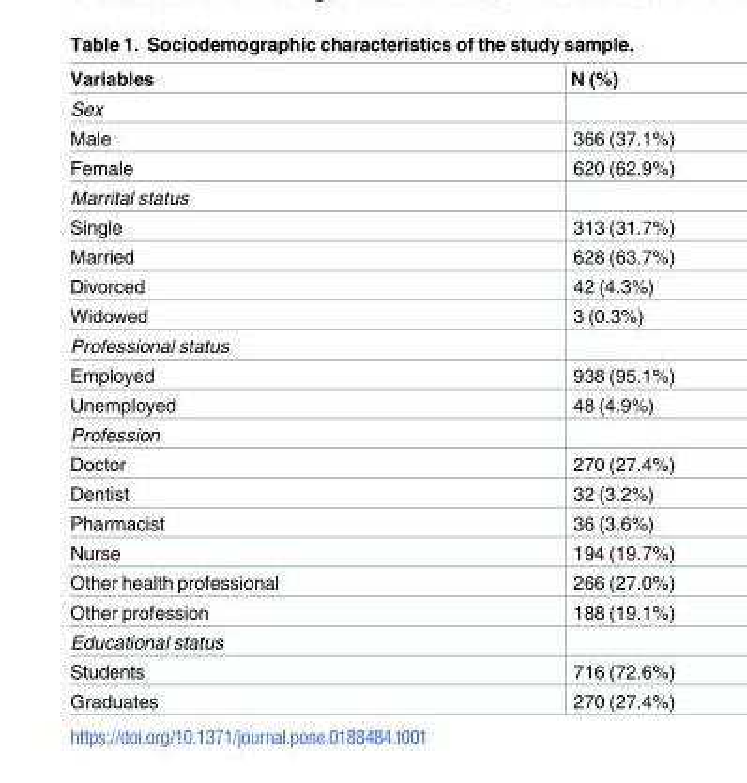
<table><thead><tr><td>Variables</td><td>N (%)</td></tr></thead><tbody><tr><td colspan="2">Sex</td></tr><tr><td>Male</td><td>366 (37.1%)</td></tr><tr><td>Female</td><td>620 (62.9%)</td></tr><tr><td colspan="2">Marrital status</td></tr><tr><td>Single</td><td>313 (31.7%)</td></tr><tr><td>Married</td><td>628 (63.7%)</td></tr><tr><td>Divorced</td><td>42 (4.3%)</td></tr><tr><td>Widowed</td><td>3 (0.3%)</td></tr><tr><td colspan="2">Professional status</td></tr><tr><td>Employed</td><td>938 (95.1%)</td></tr><tr><td>Unemployed</td><td>48 (4.9%)</td></tr><tr><td colspan="2">Profession</td></tr><tr><td>Doctor</td><td>270 (27.4%)</td></tr><tr><td>Dentist</td><td>32 (3.2%)</td></tr><tr><td>Pharmacist</td><td>36 (3.6%)</td></tr><tr><td>Nurse</td><td>194 (19.7%)</td></tr><tr><td>Other health professional</td><td>266 (27.0%)</td></tr><tr><td>Other profession</td><td>188 (19.1%)</td></tr><tr><td colspan="2">Educational status</td></tr><tr><td>Students</td><td>716 (72.6%)</td></tr><tr><td>Graduates</td><td>270 (27.4%)</td></tr></tbody></table>